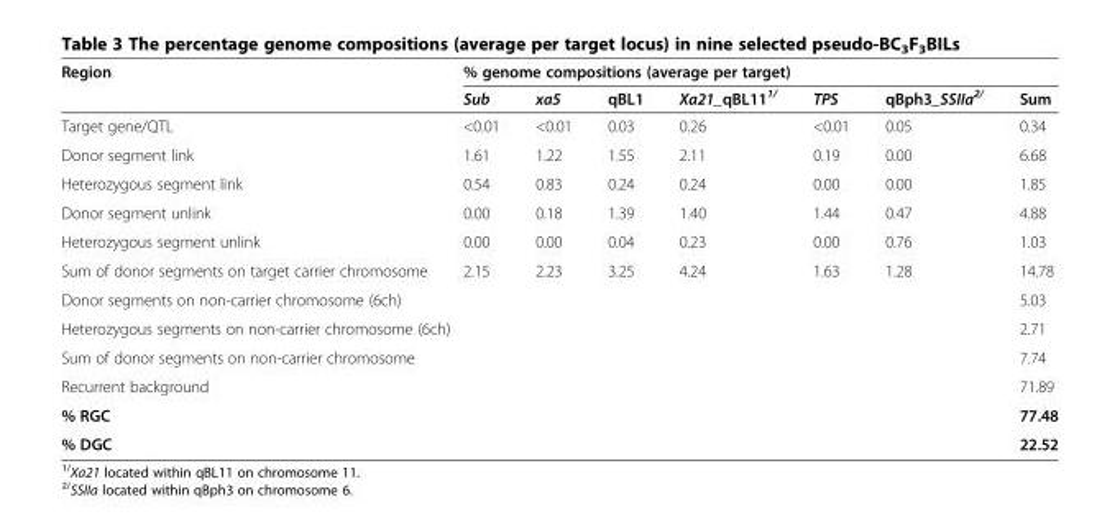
<table><thead><tr><td rowspan="2">Region</td><td colspan="7">% genome compositions (average per target)</td></tr><tr><td>Sub</td><td>xa5</td><td>qBL1</td><td>Xa21_qBL11<sup>1/</sup></td><td>TPS</td><td>qBph3_SSIIa<sup>2/</sup></td><td>Sum</td></tr></thead><tbody><tr><td>Target gene/QTL</td><td>&lt;0.01</td><td>&lt;0.01</td><td>0.03</td><td>0.26</td><td>&lt;0.01</td><td>0.05</td><td>0.34</td></tr><tr><td>Donor segment link</td><td>1.61</td><td>1.22</td><td>1.55</td><td>2.11</td><td>0.19</td><td>0.00</td><td>6.68</td></tr><tr><td>Heterozygous segment link</td><td>0.54</td><td>0.83</td><td>0.24</td><td>0.24</td><td>0.00</td><td>0.00</td><td>1.85</td></tr><tr><td>Donor segment unlink</td><td>0.00</td><td>0.18</td><td>1.39</td><td>1.40</td><td>1.44</td><td>0.47</td><td>4.88</td></tr><tr><td>Heterozygous segment unlink</td><td>0.00</td><td>0.00</td><td>0.04</td><td>0.23</td><td>0.00</td><td>0.76</td><td>1.03</td></tr><tr><td>Sum of donor segments on target carrier chromosome</td><td>2.15</td><td>2.23</td><td>3.25</td><td>4.24</td><td>1.63</td><td>1.28</td><td>14.78</td></tr><tr><td colspan="7">Donor segments on non-carrier chromosome (6ch)</td><td>5.03</td></tr><tr><td colspan="7">Heterozygous segments on non-carrier chromosome (6ch)</td><td>2.71</td></tr><tr><td colspan="7">Sum of donor segments on non-carrier chromosome</td><td>7.74</td></tr><tr><td colspan="7">Recurrent background</td><td>71.89</td></tr><tr><td colspan="7">% RGC</td><td>77.48</td></tr><tr><td colspan="7">% DGC</td><td>22.52</td></tr></tbody></table>